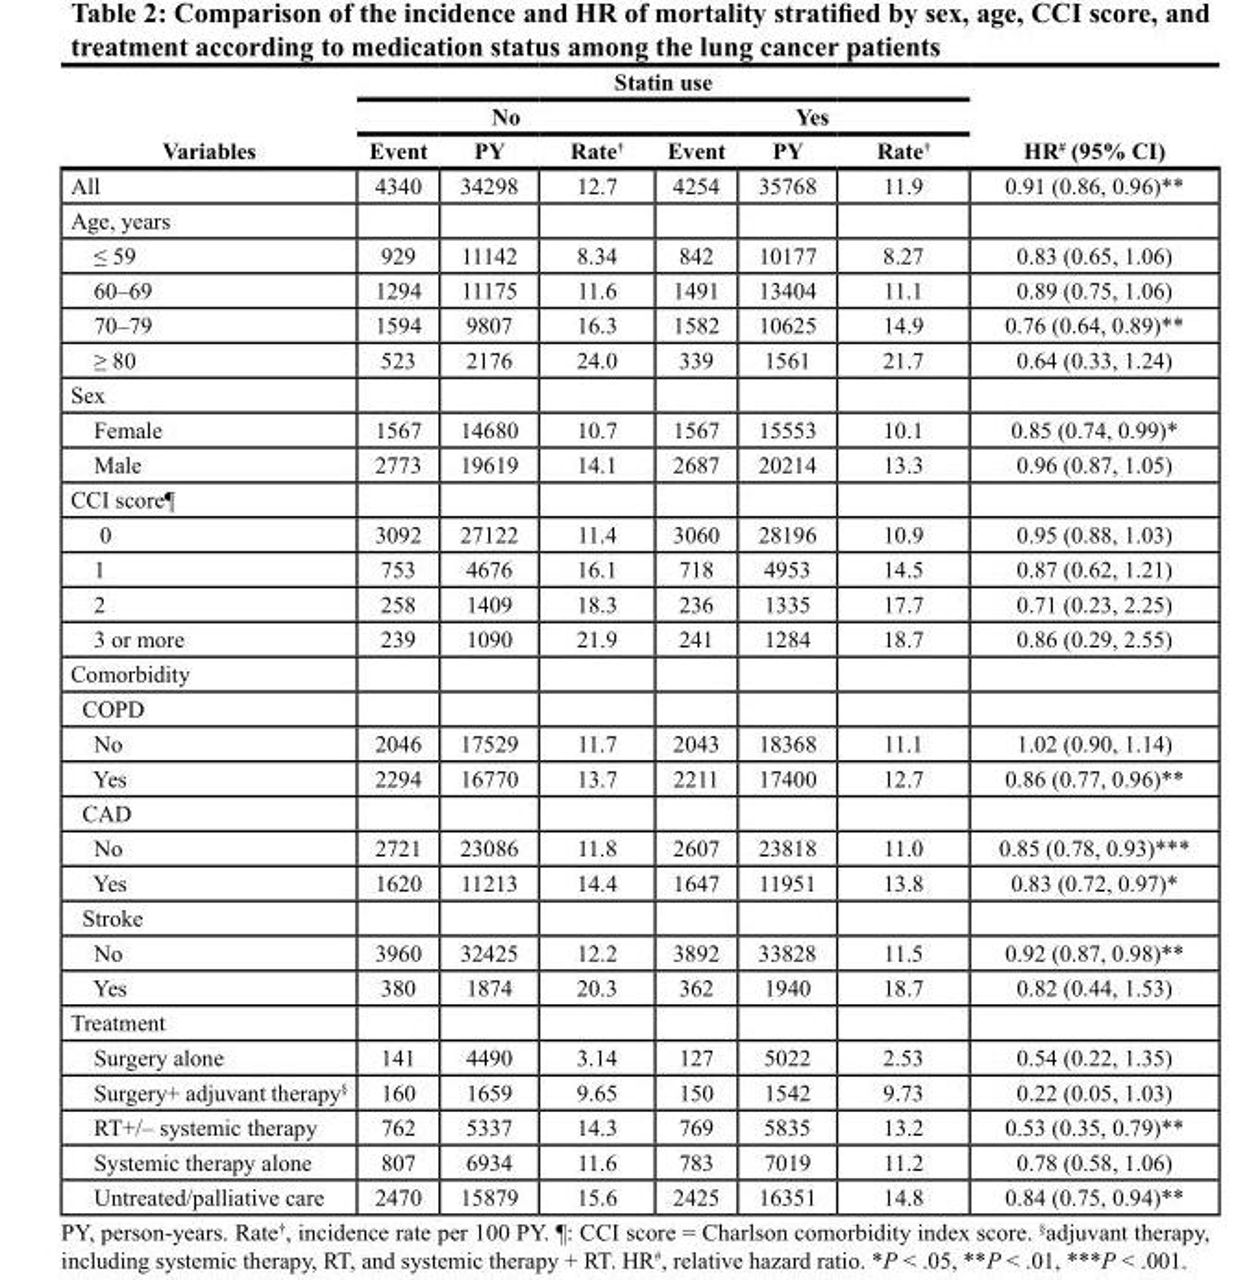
<table><thead><tr><td rowspan="3">Variables</td><td colspan="6">Statin use</td><td rowspan="3">Hr<sup>#</sup> (95% cI)</td></tr><tr><td colspan="3">no</td><td colspan="3">Yes</td></tr><tr><td>event</td><td>PY</td><td>rate<sup>†</sup></td><td>event</td><td>PY</td><td>rate<sup>†</sup></td></tr></thead><tbody><tr><td>All</td><td>4340</td><td>34298</td><td>12.7</td><td>4254</td><td>35768</td><td>11.9</td><td>0.91 (0.86, 0.96)**</td></tr><tr><td colspan="8">Age, years</td></tr><tr><td>≤ 59</td><td>929</td><td>11142</td><td>8.34</td><td>842</td><td>10177</td><td>8.27</td><td>0.83 (0.65, 1.06)</td></tr><tr><td>60–69</td><td>1294</td><td>11175</td><td>11.6</td><td>1491</td><td>13404</td><td>11.1</td><td>0.89 (0.75, 1.06)</td></tr><tr><td>70–79</td><td>1594</td><td>9807</td><td>16.3</td><td>1582</td><td>10625</td><td>14.9</td><td>0.76 (0.64, 0.89)**</td></tr><tr><td>≥ 80</td><td>523</td><td>2176</td><td>24.0</td><td>339</td><td>1561</td><td>21.7</td><td>0.64 (0.33, 1.24)</td></tr><tr><td colspan="8">Sex</td></tr><tr><td>Female</td><td>1567</td><td>14680</td><td>10.7</td><td>1567</td><td>15553</td><td>10.1</td><td>0.85 (0.74, 0.99)*</td></tr><tr><td>Male</td><td>2773</td><td>19619</td><td>14.1</td><td>2687</td><td>20214</td><td>13.3</td><td>0.96 (0.87, 1.05)</td></tr><tr><td colspan="8">CCI score¶</td></tr><tr><td>0</td><td>3092</td><td>27122</td><td>11.4</td><td>3060</td><td>28196</td><td>10.9</td><td>0.95 (0.88, 1.03)</td></tr><tr><td>1</td><td>753</td><td>4676</td><td>16.1</td><td>718</td><td>4953</td><td>14.5</td><td>0.87 (0.62, 1.21)</td></tr><tr><td>2</td><td>258</td><td>1409</td><td>18.3</td><td>236</td><td>1335</td><td>17.7</td><td>0.71 (0.23, 2.25)</td></tr><tr><td>3 or more</td><td>239</td><td>1090</td><td>21.9</td><td>241</td><td>1284</td><td>18.7</td><td>0.86 (0.29, 2.55)</td></tr><tr><td colspan="8">Comorbidity</td></tr><tr><td colspan="8">COPD</td></tr><tr><td>No</td><td>2046</td><td>17529</td><td>11.7</td><td>2043</td><td>18368</td><td>11.1</td><td>1.02 (0.90, 1.14)</td></tr><tr><td>Yes</td><td>2294</td><td>16770</td><td>13.7</td><td>2211</td><td>17400</td><td>12.7</td><td>0.86 (0.77, 0.96)**</td></tr><tr><td colspan="8">CAD</td></tr><tr><td>No</td><td>2721</td><td>23086</td><td>11.8</td><td>2607</td><td>23818</td><td>11.0</td><td>0.85 (0.78, 0.93)***</td></tr><tr><td>Yes</td><td>1620</td><td>11213</td><td>14.4</td><td>1647</td><td>11951</td><td>13.8</td><td>0.83 (0.72, 0.97)*</td></tr><tr><td colspan="8">Stroke</td></tr><tr><td>No</td><td>3960</td><td>32425</td><td>12.2</td><td>3892</td><td>33828</td><td>11.5</td><td>0.92 (0.87, 0.98)**</td></tr><tr><td>Yes</td><td>380</td><td>1874</td><td>20.3</td><td>362</td><td>1940</td><td>18.7</td><td>0.82 (0.44, 1.53)</td></tr><tr><td colspan="8">Treatment</td></tr><tr><td>Surgery alone</td><td>141</td><td>4490</td><td>3.14</td><td>127</td><td>5022</td><td>2.53</td><td>0.54 (0.22, 1.35)</td></tr><tr><td>Surgery+ adjuvant therapy<sup>§</sup></td><td>160</td><td>1659</td><td>9.65</td><td>150</td><td>1542</td><td>9.73</td><td>0.22 (0.05, 1.03)</td></tr><tr><td>RT+/– systemic therapy</td><td>762</td><td>5337</td><td>14.3</td><td>769</td><td>5835</td><td>13.2</td><td>0.53 (0.35, 0.79)**</td></tr><tr><td>Systemic therapy alone</td><td>807</td><td>6934</td><td>11.6</td><td>783</td><td>7019</td><td>11.2</td><td>0.78 (0.58, 1.06)</td></tr><tr><td>Untreated/palliative care</td><td>2470</td><td>15879</td><td>15.6</td><td>2425</td><td>16351</td><td>14.8</td><td>0.84 (0.75, 0.94)**</td></tr></tbody></table>